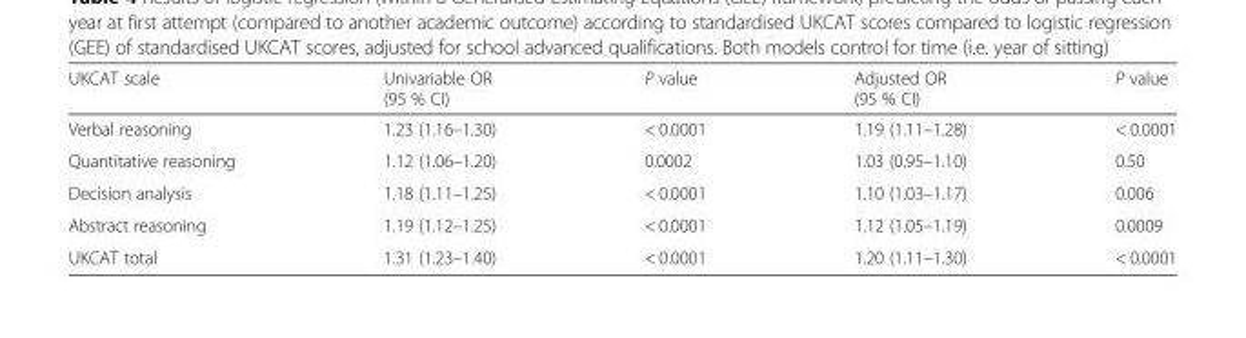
<table><thead><tr><td>UKCAT scale</td><td>Univariable OR (95 % CI)</td><td>P value</td><td>Adjusted OR (95 % CI)</td><td>P value</td></tr></thead><tbody><tr><td>Verbal reasoning</td><td>1.23 (1.16–1.30)</td><td>&lt; 0.0001</td><td>1.19 (1.11–1.28)</td><td>&lt; 0.0001</td></tr><tr><td>Quantitative reasoning</td><td>1.12 (1.06–1.20)</td><td>0.0002</td><td>1.03 (0.95–1.10)</td><td>0.50</td></tr><tr><td>Decision analysis</td><td>1.18 (1.11–1.25)</td><td>&lt; 0.0001</td><td>1.10 (1.03–1.17)</td><td>0.006</td></tr><tr><td>Abstract reasoning</td><td>1.19 (1.12–1.25)</td><td>&lt; 0.0001</td><td>1.12 (1.05–1.19)</td><td>0.0009</td></tr><tr><td>UKCAT total</td><td>1.31 (1.23–1.40)</td><td>&lt; 0.0001</td><td>1.20 (1.11–1.30)</td><td>&lt; 0.0001</td></tr></tbody></table>